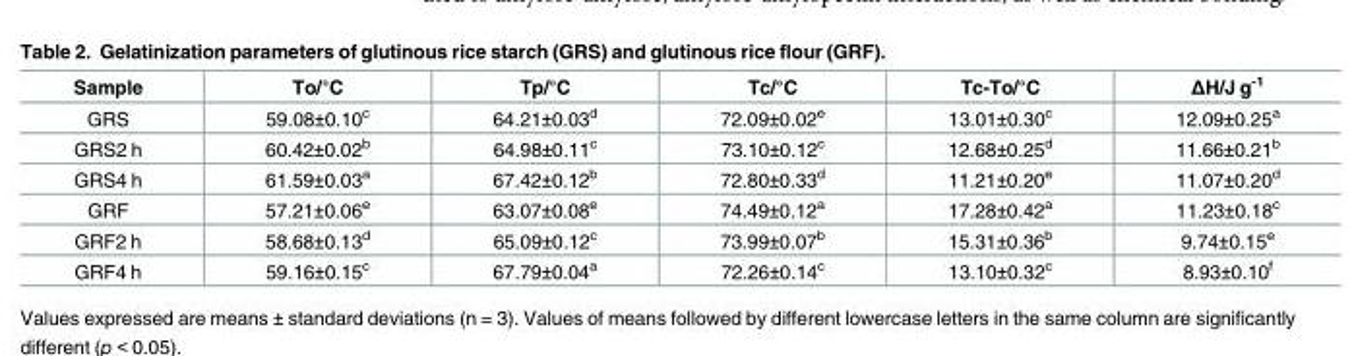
<table><thead><tr><td>Sample</td><td>To/°C</td><td>Tp/°C</td><td>Tc/°C</td><td>Tc-To/°C</td><td>ΔH/J g<sup>-1</sup></td></tr></thead><tbody><tr><td>GRS</td><td>59.08±0.10<sup>c</sup></td><td>64.21±0.03<sup>d</sup></td><td>72.09±0.02<sup>e</sup></td><td>13.01±0.30<sup>c</sup></td><td>12.09±0.25<sup>a</sup></td></tr><tr><td>GRS2 h</td><td>60.42±0.02<sup>b</sup></td><td>64.98±0.11<sup>c</sup></td><td>73.10±0.12<sup>c</sup></td><td>12.68±0.25<sup>d</sup></td><td>11.66±0.21<sup>b</sup></td></tr><tr><td>GRS4 h</td><td>61.59±0.03<sup>a</sup></td><td>67.42±0.12<sup>b</sup></td><td>72.80±0.33<sup>d</sup></td><td>11.21±0.20<sup>e</sup></td><td>11.07±0.20<sup>d</sup></td></tr><tr><td>GRF</td><td>57.21±0.06<sup>e</sup></td><td>63.07±0.08<sup>e</sup></td><td>74.49±0.12<sup>a</sup></td><td>17.28±0.42<sup>a</sup></td><td>11.23±0.18<sup>c</sup></td></tr><tr><td>GRF2 h</td><td>58.68±0.13<sup>d</sup></td><td>65.09±0.12<sup>c</sup></td><td>73.99±0.07<sup>b</sup></td><td>15.31±0.36<sup>b</sup></td><td>9.74±0.15<sup>e</sup></td></tr><tr><td>GRF4 h</td><td>59.16±0.15<sup>c</sup></td><td>67.79±0.04<sup>a</sup></td><td>72.26±0.14<sup>c</sup></td><td>13.10±0.32<sup>c</sup></td><td>8.93±0.10<sup>f</sup></td></tr></tbody></table>